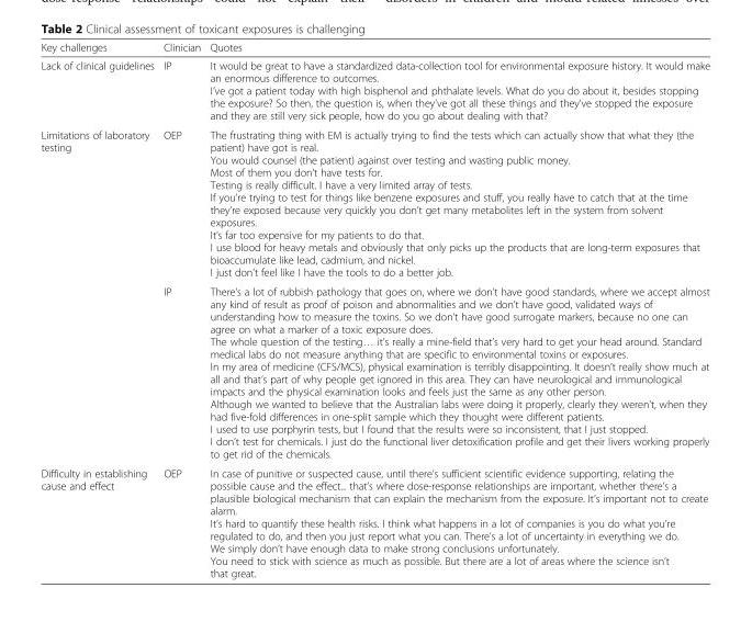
<table><thead><tr><td>Key challenges</td><td>Clinician</td><td>Quotes</td></tr></thead><tbody><tr><td>Lack of clinical guidelines</td><td>IP</td><td>It would be great to have a standardized data-collection tool for environmental exposure history. It would make an enormous difference to outcomes. I’ve got a patient today with high bisphenol and phthalate levels. What do you do about it, besides stopping the exposure? So then, the question is, when they’ve got all these things and they’ve stopped the exposure and they are still very sick people, how do you go about dealing with that?</td></tr><tr><td rowspan="2">Limitations of laboratory testing</td><td>OEP</td><td>The frustrating thing with EM is actually trying to find the tests which can actually show that what they (the patient) have got is real. You would counsel (the patient) against over testing and wasting public money. Most of them you don’t have tests for. Testing is really difficult. I have a very limited array of tests. If you’re trying to test for things like benzene exposures and stuff, you really have to catch that at the time they’re exposed because very quickly you don’t get many metabolites left in the system from solvent exposures. It’s far too expensive for my patients to do that. I use blood for heavy metals and obviously that only picks up the products that are long-term exposures that bioaccumulate like lead, cadmium, and nickel. I just don’t feel like I have the tools to do a better job.</td></tr><tr><td>IP</td><td>There’s a lot of rubbish pathology that goes on, where we don’t have good standards, where we accept almost any kind of result as proof of poison and abnormalities and we don’t have good, validated ways of understanding how to measure the toxins. So we don’t have good surrogate markers, because no one can agree on what a marker of a toxic exposure does. The whole question of the testing… it’s really a mine-field that’s very hard to get your head around. Standard medical labs do not measure anything that are specific to environmental toxins or exposures. In my area of medicine (CFS/MCS), physical examination is terribly disappointing. It doesn’t really show much at all and that’s part of why people get ignored in this area. They can have neurological and immunological impacts and the physical examination looks and feels just the same as any other person. Although we wanted to believe that the Australian labs were doing it properly, clearly they weren’t, when they had five-fold differences in one-split sample which they thought were different patients. I used to use porphyrin tests, but I found that the results were so inconsistent, that I just stopped. I don’t test for chemicals. I just do the functional liver detoxification profile and get their livers working properly to get rid of the chemicals.</td></tr><tr><td>Difficulty in establishing cause and effect</td><td>OEP</td><td>In case of punitive or suspected cause, until there’s sufficient scientific evidence supporting, relating the possible cause and the effect... that’s where dose-response relationships are important, whether there’s a plausible biological mechanism that can explain the mechanism from the exposure. It’s important not to create alarm. It’s hard to quantify these health risks. I think what happens in a lot of companies is you do what you’re regulated to do, and then you just report what you can. There’s a lot of uncertainty in everything we do. We simply don’t have enough data to make strong conclusions unfortunately. You need to stick with science as much as possible. But there are a lot of areas where the science isn’t that great.</td></tr></tbody></table>